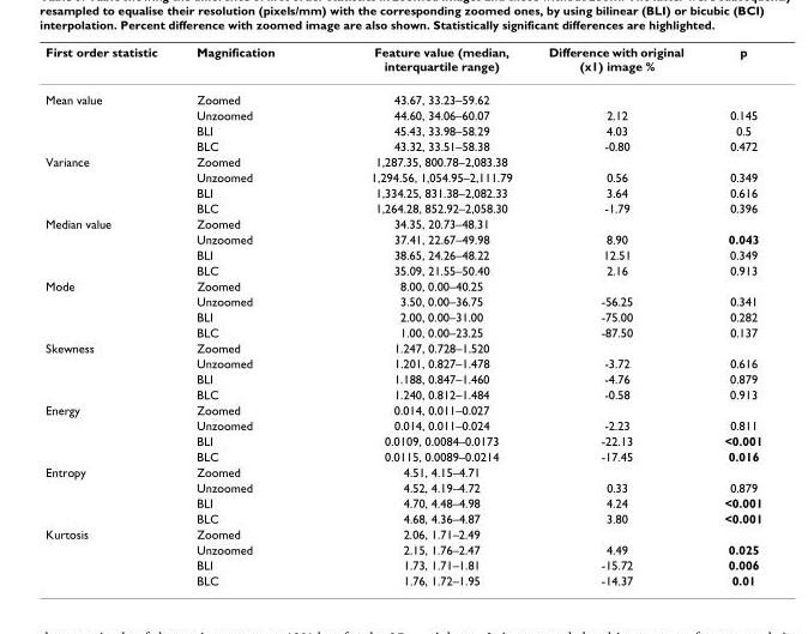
<table><thead><tr><td>First order statistic</td><td>Magnification</td><td>Feature value (median, interquartile range)</td><td>Difference with original (x1) image %</td><td>p</td></tr></thead><tbody><tr><td rowspan="4">Mean value</td><td>Zoomed</td><td>43.67, 33.23–59.62</td><td></td><td></td></tr><tr><td>Unzoomed</td><td>44.60, 34.06–60.07</td><td>2.12</td><td>0.145</td></tr><tr><td>BLI</td><td>45.43, 33.98–58.29</td><td>4.03</td><td>0.5</td></tr><tr><td>BLC</td><td>43.32, 33.51–58.38</td><td>-0.80</td><td>0.472</td></tr><tr><td rowspan="4">Variance</td><td>Zoomed</td><td>1,287.35, 800.78–2,083.38</td><td></td><td></td></tr><tr><td>Unzoomed</td><td>1,294.56, 1,054.95–2,111.79</td><td>0.56</td><td>0.349</td></tr><tr><td>BLI</td><td>1,334.25, 831.38–2,082.33</td><td>3.64</td><td>0.616</td></tr><tr><td>BLC</td><td>1,264.28, 852.92–2,058.30</td><td>-1.79</td><td>0.396</td></tr><tr><td rowspan="4">Median value</td><td>Zoomed</td><td>34.35, 20.73–48.31</td><td></td><td></td></tr><tr><td>Unzoomed</td><td>37.41, 22.67–49.98</td><td>8.90</td><td>0.043</td></tr><tr><td>BLI</td><td>38.65, 24.26–48.22</td><td>12.51</td><td>0.349</td></tr><tr><td>BLC</td><td>35.09, 21.55–50.40</td><td>2.16</td><td>0.913</td></tr><tr><td rowspan="4">Mode</td><td>Zoomed</td><td>8.00, 0.00–40.25</td><td></td><td></td></tr><tr><td>Unzoomed</td><td>3.50, 0.00–36.75</td><td>-56.25</td><td>0.341</td></tr><tr><td>BLI</td><td>2.00, 0.00–31.00</td><td>-75.00</td><td>0.282</td></tr><tr><td>BLC</td><td>1.00, 0.00–23.25</td><td>-87.50</td><td>0.137</td></tr><tr><td rowspan="4">Skewness</td><td>Zoomed</td><td>1.247, 0.728–1.520</td><td></td><td></td></tr><tr><td>Unzoomed</td><td>1.201, 0.827–1.478</td><td>-3.72</td><td>0.616</td></tr><tr><td>BLI</td><td>1.188, 0.847–1.460</td><td>-4.76</td><td>0.879</td></tr><tr><td>BLC</td><td>1.240, 0.812–1.484</td><td>-0.58</td><td>0.913</td></tr><tr><td rowspan="4">Energy</td><td>Zoomed</td><td>0.014, 0.011–0.027</td><td></td><td></td></tr><tr><td>Unzoomed</td><td>0.014, 0.011–0.024</td><td>-2.23</td><td>0.811</td></tr><tr><td>BLI</td><td>0.0109, 0.0084–0.0173</td><td>-22.13</td><td>&lt;0.001</td></tr><tr><td>BLC</td><td>0.0115, 0.0089–0.0214</td><td>-17.45</td><td>0.016</td></tr><tr><td rowspan="4">Entropy</td><td>Zoomed</td><td>4.51, 4.15–4.71</td><td></td><td></td></tr><tr><td>Unzoomed</td><td>4.52, 4.19–4.72</td><td>0.33</td><td>0.879</td></tr><tr><td>BLI</td><td>4.70, 4.48–4.98</td><td>4.24</td><td>&lt;0.001</td></tr><tr><td>BLC</td><td>4.68, 4.36–4.87</td><td>3.80</td><td>&lt;0.001</td></tr><tr><td rowspan="4">Kurtosis</td><td>Zoomed</td><td>2.06, 1.71–2.49</td><td></td><td></td></tr><tr><td>Unzoomed</td><td>2.15, 1.76–2.47</td><td>4.49</td><td>0.025</td></tr><tr><td>BLI</td><td>1.73, 1.71–1.81</td><td>-15.72</td><td>0.006</td></tr><tr><td>BLC</td><td>1.76, 1.72–1.95</td><td>-14.37</td><td>0.01</td></tr></tbody></table>